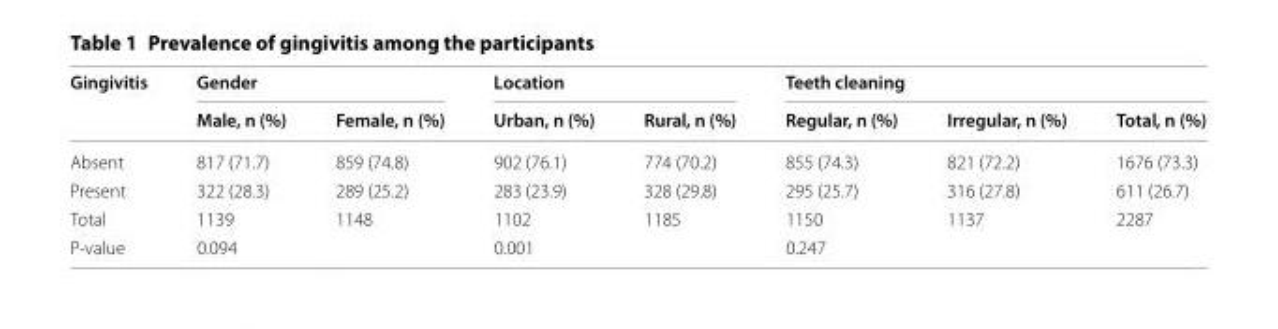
<table><thead><tr><td rowspan="2">Gingivitis</td><td colspan="2">Gender</td><td colspan="2">Location</td><td colspan="3">Teeth cleaning</td></tr><tr><td>Male, n (%)</td><td>Female, n (%)</td><td>Urban, n (%)</td><td>Rural, n (%)</td><td>Regular, n (%)</td><td>Irregular, n (%)</td><td>Total, n (%)</td></tr></thead><tbody><tr><td>Absent</td><td>817 (71.7)</td><td>859 (74.8)</td><td>902 (76.1)</td><td>774 (70.2)</td><td>855 (74.3)</td><td>821 (72.2)</td><td>1676 (73.3)</td></tr><tr><td>Present</td><td>322 (28.3)</td><td>289 (25.2)</td><td>283 (23.9)</td><td>328 (29.8)</td><td>295 (25.7)</td><td>316 (27.8)</td><td>611 (26.7)</td></tr><tr><td>Total</td><td>1139</td><td>1148</td><td>1102</td><td>1185</td><td>1150</td><td>1137</td><td>2287</td></tr><tr><td>P-value</td><td>0.094</td><td></td><td>0.001</td><td></td><td>0.247</td><td></td><td></td></tr></tbody></table>